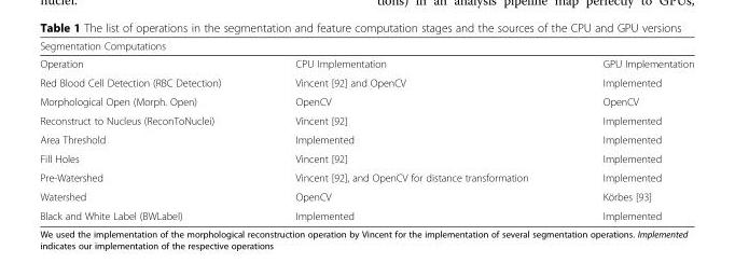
<table><thead><tr><td colspan="3">Segmentation Computations</td></tr><tr><td>Operation</td><td>CPU Implementation</td><td>GPU Implementation</td></tr></thead><tbody><tr><td>Red Blood Cell Detection (RBC Detection)</td><td>Vincent [92] and OpenCV</td><td>Implemented</td></tr><tr><td>Morphological Open (Morph. Open)</td><td>OpenCV</td><td>OpenCV</td></tr><tr><td>Reconstruct to Nucleus (ReconToNuclei)</td><td>Vincent [92]</td><td>Implemented</td></tr><tr><td>Area Threshold</td><td>Implemented</td><td>Implemented</td></tr><tr><td>Fill Holes</td><td>Vincent [92]</td><td>Implemented</td></tr><tr><td>Pre-Watershed</td><td>Vincent [92], and OpenCV for distance transformation</td><td>Implemented</td></tr><tr><td>Watershed</td><td>OpenCV</td><td>Körbes [93]</td></tr><tr><td>Black and White Label (BWLabel)</td><td>Implemented</td><td>Implemented</td></tr></tbody></table>